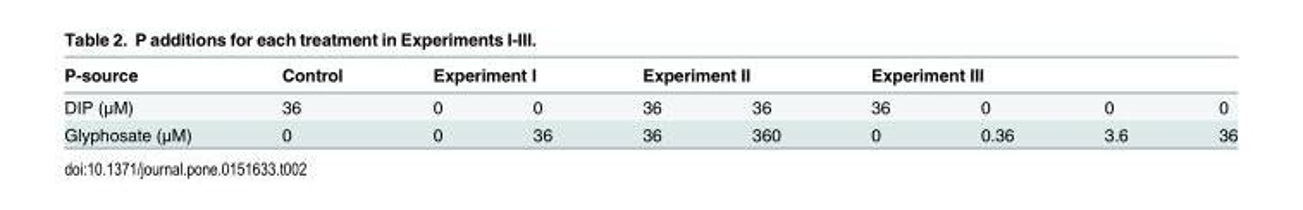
<table><thead><tr><td rowspan="2">P-source DIP (μM)</td><td rowspan="2">Control 36</td><td colspan="2">Experiment I</td><td colspan="2">Experiment II</td><td colspan="4">Experiment III</td></tr><tr><td>0</td><td>0</td><td>36</td><td>36</td><td>36</td><td>0</td><td>0</td><td>0</td></tr></thead><tbody><tr><td>Glyphosate (μM)</td><td>0</td><td>0</td><td>36</td><td>36</td><td>360</td><td>0</td><td>0.36</td><td>3.6</td><td>36</td></tr></tbody></table>